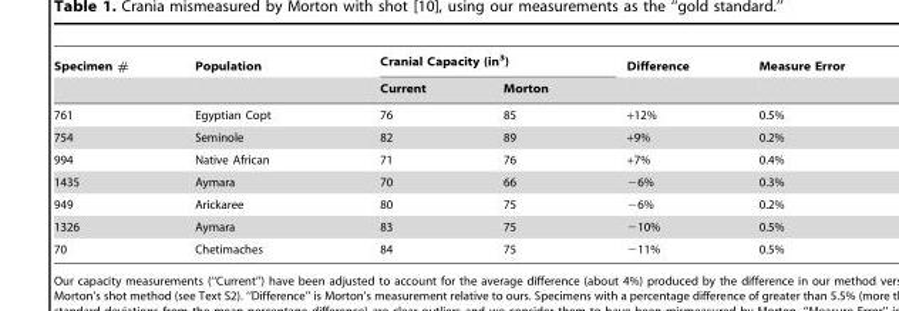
<table><thead><tr><td rowspan="2">Specimen #</td><td rowspan="2">Population</td><td colspan="2">Cranial Capacity (in<sup>3</sup>)</td><td rowspan="2">Difference</td><td rowspan="2">Measure Error</td></tr><tr><td>Current</td><td>Morton</td></tr></thead><tbody><tr><td>761</td><td>Egyptian Copt</td><td>76</td><td>85</td><td>+12%</td><td>0.5%</td></tr><tr><td>754</td><td>Seminole</td><td>82</td><td>89</td><td>+9%</td><td>0.2%</td></tr><tr><td>994</td><td>Native African</td><td>71</td><td>76</td><td>+7%</td><td>0.4%</td></tr><tr><td>1435</td><td>Aymara</td><td>70</td><td>66</td><td>−6%</td><td>0.3%</td></tr><tr><td>949</td><td>Arickaree</td><td>80</td><td>75</td><td>−6%</td><td>0.2%</td></tr><tr><td>1326</td><td>Aymara</td><td>83</td><td>75</td><td>−10%</td><td>0.5%</td></tr><tr><td>70</td><td>Chetimaches</td><td>84</td><td>75</td><td>−11%</td><td>0.5%</td></tr></tbody></table>